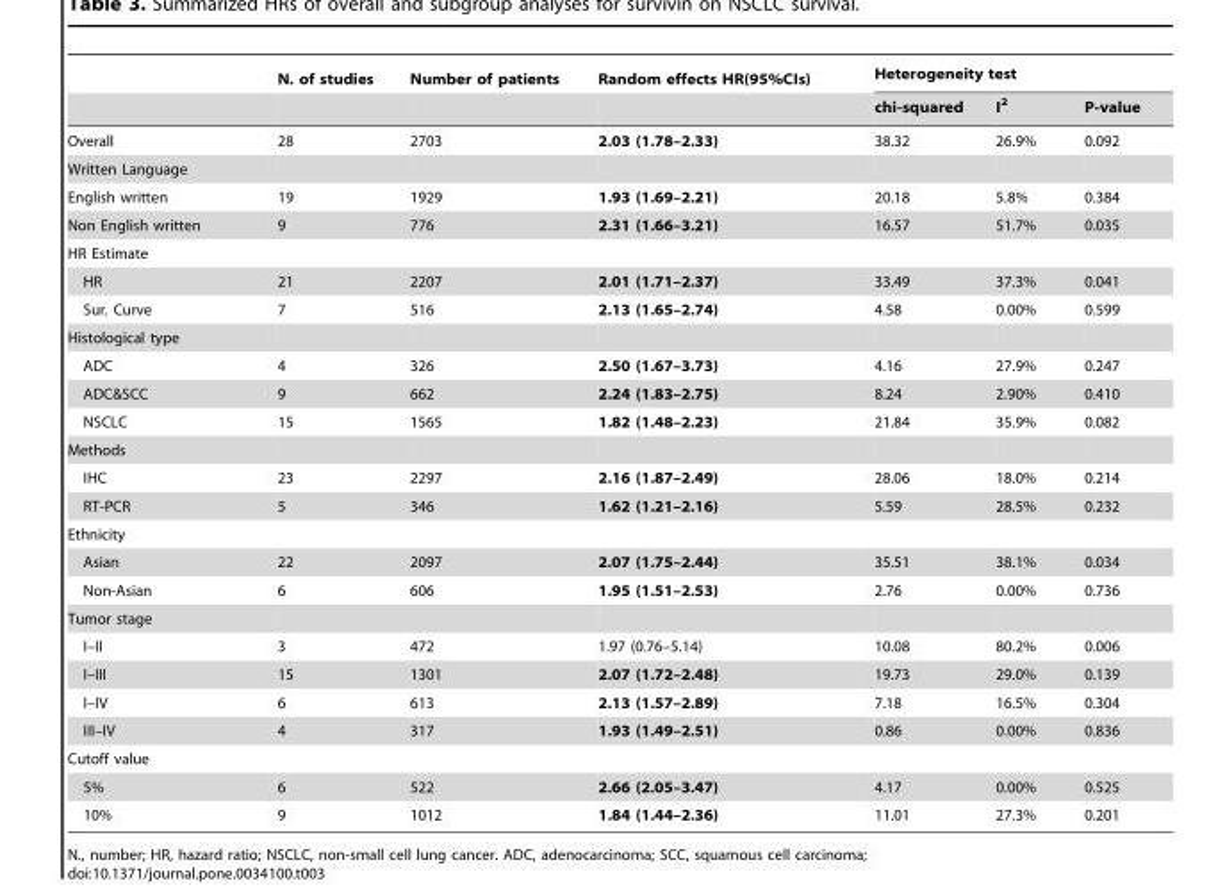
<table><thead><tr><td rowspan="2"></td><td rowspan="2">N. of studies</td><td rowspan="2">Number of patients</td><td rowspan="2">Random effects HR(95%CIs)</td><td colspan="3">Heterogeneity test</td></tr><tr><td>chi-squared</td><td>I<sup>2</sup></td><td>P-value</td></tr></thead><tbody><tr><td>Overall</td><td>28</td><td>2703</td><td>2.03 (1.78–2.33)</td><td>38.32</td><td>26.9%</td><td>0.092</td></tr><tr><td colspan="7">Written Language</td></tr><tr><td>English written</td><td>19</td><td>1929</td><td>1.93 (1.69–2.21)</td><td>20.18</td><td>5.8%</td><td>0.384</td></tr><tr><td>Non English written</td><td>9</td><td>776</td><td>2.31 (1.66–3.21)</td><td>16.57</td><td>51.7%</td><td>0.035</td></tr><tr><td colspan="7">HR Estimate</td></tr><tr><td>HR</td><td>21</td><td>2207</td><td>2.01 (1.71–2.37)</td><td>33.49</td><td>37.3%</td><td>0.041</td></tr><tr><td>Sur. Curve</td><td>7</td><td>516</td><td>2.13 (1.65–2.74)</td><td>4.58</td><td>0.00%</td><td>0.599</td></tr><tr><td colspan="7">Histological type</td></tr><tr><td>ADC</td><td>4</td><td>326</td><td>2.50 (1.67–3.73)</td><td>4.16</td><td>27.9%</td><td>0.247</td></tr><tr><td>ADC&amp;SCC</td><td>9</td><td>662</td><td>2.24 (1.83–2.75)</td><td>8.24</td><td>2.90%</td><td>0.410</td></tr><tr><td>NSCLC</td><td>15</td><td>1565</td><td>1.82 (1.48–2.23)</td><td>21.84</td><td>35.9%</td><td>0.082</td></tr><tr><td colspan="7">Methods</td></tr><tr><td>IHC</td><td>23</td><td>2297</td><td>2.16 (1.87–2.49)</td><td>28.06</td><td>18.0%</td><td>0.214</td></tr><tr><td>RT-PCR</td><td>5</td><td>346</td><td>1.62 (1.21–2.16)</td><td>5.59</td><td>28.5%</td><td>0.232</td></tr><tr><td colspan="7">Ethnicity</td></tr><tr><td>Asian</td><td>22</td><td>2097</td><td>2.07 (1.75–2.44)</td><td>35.51</td><td>38.1%</td><td>0.034</td></tr><tr><td>Non-Asian</td><td>6</td><td>606</td><td>1.95 (1.51–2.53)</td><td>2.76</td><td>0.00%</td><td>0.736</td></tr><tr><td colspan="7">Tumor stage</td></tr><tr><td>I–II</td><td>3</td><td>472</td><td>1.97 (0.76–5.14)</td><td>10.08</td><td>80.2%</td><td>0.006</td></tr><tr><td>I–III</td><td>15</td><td>1301</td><td>2.07 (1.72–2.48)</td><td>19.73</td><td>29.0%</td><td>0.139</td></tr><tr><td>I–IV</td><td>6</td><td>613</td><td>2.13 (1.57–2.89)</td><td>7.18</td><td>16.5%</td><td>0.304</td></tr><tr><td>III–IV</td><td>4</td><td>317</td><td>1.93 (1.49–2.51)</td><td>0.86</td><td>0.00%</td><td>0.836</td></tr><tr><td colspan="7">Cutoff value</td></tr><tr><td>5%</td><td>6</td><td>522</td><td>2.66 (2.05–3.47)</td><td>4.17</td><td>0.00%</td><td>0.525</td></tr><tr><td>10%</td><td>9</td><td>1012</td><td>1.84 (1.44–2.36)</td><td>11.01</td><td>27.3%</td><td>0.201</td></tr></tbody></table>